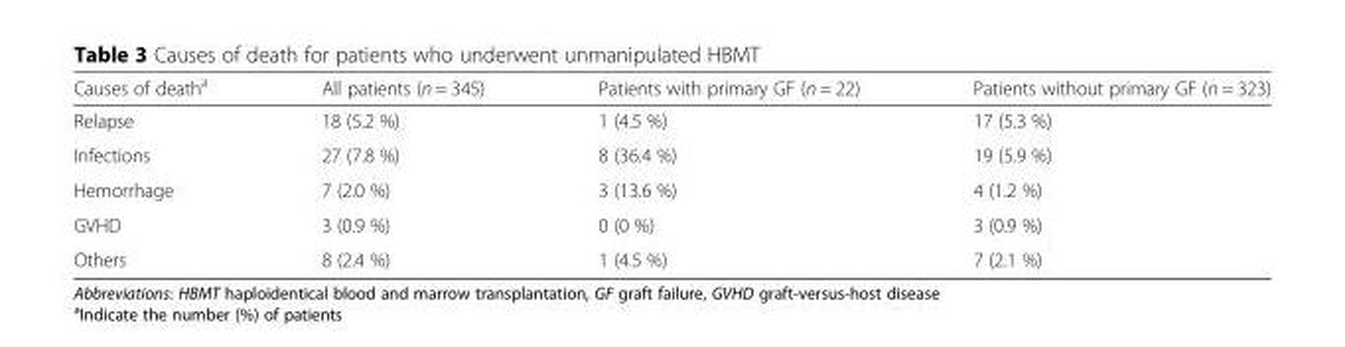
<table><thead><tr><td>Causes of death<sup>a</sup></td><td>All patients (n = 345)</td><td>Patients with primary GF (n = 22)</td><td>Patients without primary GF (n = 323)</td></tr></thead><tbody><tr><td>Relapse</td><td>18 (5.2 %)</td><td>1 (4.5 %)</td><td>17 (5.3 %)</td></tr><tr><td>Infections</td><td>27 (7.8 %)</td><td>8 (36.4 %)</td><td>19 (5.9 %)</td></tr><tr><td>Hemorrhage</td><td>7 (2.0 %)</td><td>3 (13.6 %)</td><td>4 (1.2 %)</td></tr><tr><td>GVHD</td><td>3 (0.9 %)</td><td>0 (0 %)</td><td>3 (0.9 %)</td></tr><tr><td>Others</td><td>8 (2.4 %)</td><td>1 (4.5 %)</td><td>7 (2.1 %)</td></tr></tbody></table>